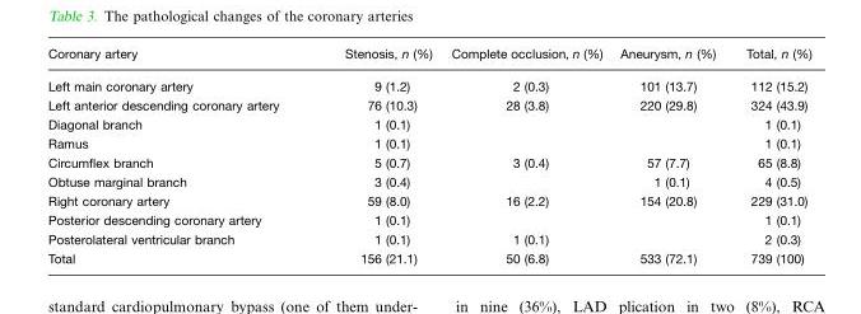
<table><thead><tr><td>Coronary artery</td><td>Stenosis, n (%)</td><td>Complete occlusion, n (%)</td><td>Aneurysm, n (%)</td><td>Total, n (%)</td></tr></thead><tbody><tr><td>Left main coronary artery</td><td>9 (1.2)</td><td>2 (0.3)</td><td>101 (13.7)</td><td>112 (15.2)</td></tr><tr><td>Left anterior descending coronary artery</td><td>76 (10.3)</td><td>28 (3.8)</td><td>220 (29.8)</td><td>324 (43.9)</td></tr><tr><td>Diagonal branch</td><td>1 (0.1)</td><td></td><td></td><td>1 (0.1)</td></tr><tr><td>Ramus</td><td>1 (0.1)</td><td></td><td></td><td>1 (0.1)</td></tr><tr><td>Circumflex branch</td><td>5 (0.7)</td><td>3 (0.4)</td><td>57 (7.7)</td><td>65 (8.8)</td></tr><tr><td>Obtuse marginal branch</td><td>3 (0.4)</td><td></td><td>1 (0.1)</td><td>4 (0.5)</td></tr><tr><td>Right coronary artery</td><td>59 (8.0)</td><td>16 (2.2)</td><td>154 (20.8)</td><td>229 (31.0)</td></tr><tr><td>Posterior descending coronary artery</td><td>1 (0.1)</td><td></td><td></td><td>1 (0.1)</td></tr><tr><td>Posterolateral ventricular branch</td><td>1 (0.1)</td><td>1 (0.1)</td><td></td><td>2 (0.3)</td></tr><tr><td>Total</td><td>156 (21.1)</td><td>50 (6.8)</td><td>533 (72.1)</td><td>739 (100)</td></tr></tbody></table>